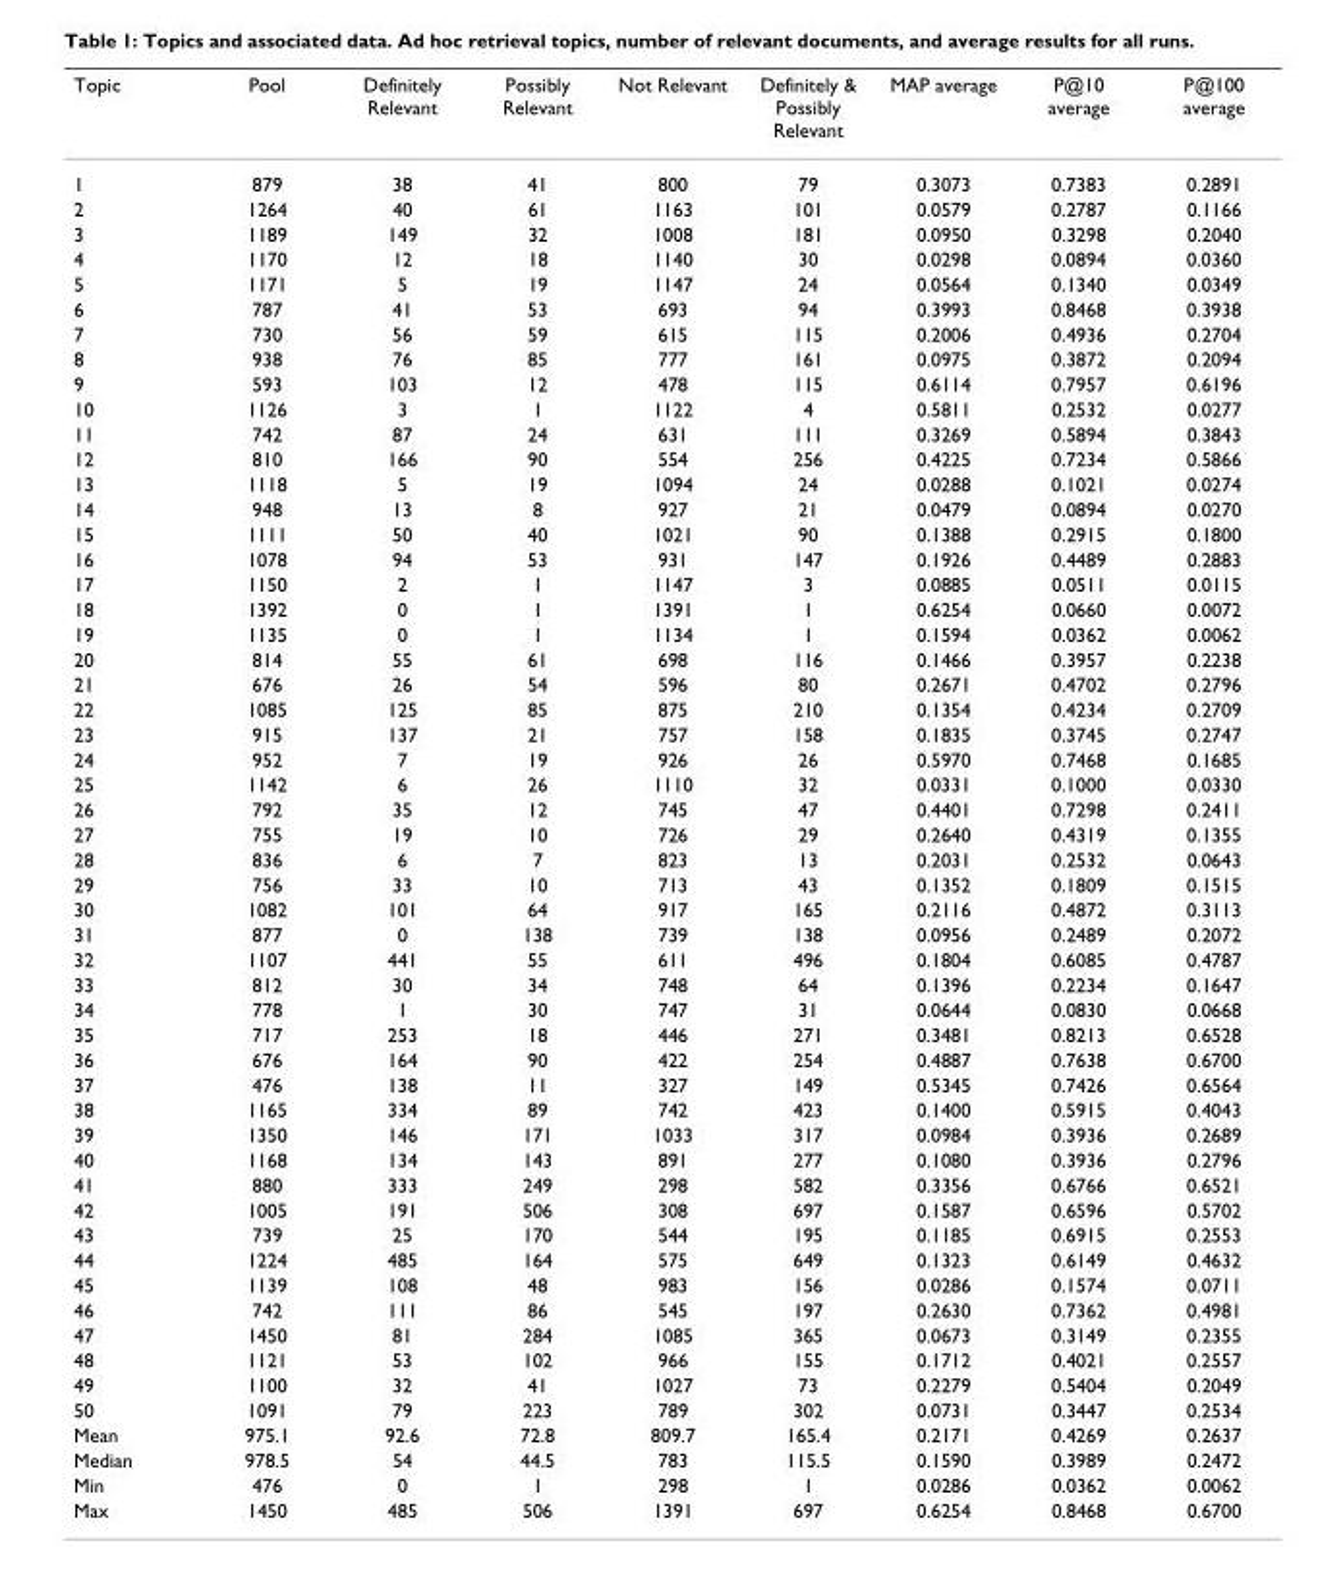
<table><thead><tr><td>Topic</td><td>Pool</td><td>Definitely Relevant</td><td>Possibly Relevant</td><td>Not Relevant</td><td>Definitely &amp; Possibly Relevant</td><td>MAP average</td><td>P@10 average</td><td>P@100 average</td></tr></thead><tbody><tr><td>1</td><td>879</td><td>38</td><td>41</td><td>800</td><td>79</td><td>0.3073</td><td>0.7383</td><td>0.2891</td></tr><tr><td>2</td><td>1264</td><td>40</td><td>61</td><td>1163</td><td>101</td><td>0.0579</td><td>0.2787</td><td>0.1166</td></tr><tr><td>3</td><td>1189</td><td>149</td><td>32</td><td>1008</td><td>181</td><td>0.0950</td><td>0.3298</td><td>0.2040</td></tr><tr><td>4</td><td>1170</td><td>12</td><td>18</td><td>1140</td><td>30</td><td>0.0298</td><td>0.0894</td><td>0.0360</td></tr><tr><td>5</td><td>1171</td><td>5</td><td>19</td><td>1147</td><td>24</td><td>0.0564</td><td>0.1340</td><td>0.0349</td></tr><tr><td>6</td><td>787</td><td>41</td><td>53</td><td>693</td><td>94</td><td>0.3993</td><td>0.8468</td><td>0.3938</td></tr><tr><td>7</td><td>730</td><td>56</td><td>59</td><td>615</td><td>115</td><td>0.2006</td><td>0.4936</td><td>0.2704</td></tr><tr><td>8</td><td>938</td><td>76</td><td>85</td><td>777</td><td>161</td><td>0.0975</td><td>0.3872</td><td>0.2094</td></tr><tr><td>9</td><td>593</td><td>103</td><td>12</td><td>478</td><td>115</td><td>0.6114</td><td>0.7957</td><td>0.6196</td></tr><tr><td>10</td><td>1126</td><td>3</td><td>1</td><td>1122</td><td>4</td><td>0.5811</td><td>0.2532</td><td>0.0277</td></tr><tr><td>11</td><td>742</td><td>87</td><td>24</td><td>631</td><td>111</td><td>0.3269</td><td>0.5894</td><td>0.3843</td></tr><tr><td>12</td><td>810</td><td>166</td><td>90</td><td>554</td><td>256</td><td>0.4225</td><td>0.7234</td><td>0.5866</td></tr><tr><td>13</td><td>1118</td><td>5</td><td>19</td><td>1094</td><td>24</td><td>0.0288</td><td>0.1021</td><td>0.0274</td></tr><tr><td>14</td><td>948</td><td>13</td><td>8</td><td>927</td><td>21</td><td>0.0479</td><td>0.0894</td><td>0.0270</td></tr><tr><td>15</td><td>1111</td><td>50</td><td>40</td><td>1021</td><td>90</td><td>0.1388</td><td>0.2915</td><td>0.1800</td></tr><tr><td>16</td><td>1078</td><td>94</td><td>53</td><td>931</td><td>147</td><td>0.1926</td><td>0.4489</td><td>0.2883</td></tr><tr><td>17</td><td>1150</td><td>2</td><td>1</td><td>1147</td><td>3</td><td>0.0885</td><td>0.0511</td><td>0.0115</td></tr><tr><td>18</td><td>1392</td><td>0</td><td>1</td><td>1391</td><td>1</td><td>0.6254</td><td>0.0660</td><td>0.0072</td></tr><tr><td>19</td><td>1135</td><td>0</td><td>1</td><td>1134</td><td>1</td><td>0.1594</td><td>0.0362</td><td>0.0062</td></tr><tr><td>20</td><td>814</td><td>55</td><td>61</td><td>698</td><td>116</td><td>0.1466</td><td>0.3957</td><td>0.2238</td></tr><tr><td>21</td><td>676</td><td>26</td><td>54</td><td>596</td><td>80</td><td>0.2671</td><td>0.4702</td><td>0.2796</td></tr><tr><td>22</td><td>1085</td><td>125</td><td>85</td><td>875</td><td>210</td><td>0.1354</td><td>0.4234</td><td>0.2709</td></tr><tr><td>23</td><td>915</td><td>137</td><td>21</td><td>757</td><td>158</td><td>0.1835</td><td>0.3745</td><td>0.2747</td></tr><tr><td>24</td><td>952</td><td>7</td><td>19</td><td>926</td><td>26</td><td>0.5970</td><td>0.7468</td><td>0.1685</td></tr><tr><td>25</td><td>1142</td><td>6</td><td>26</td><td>1110</td><td>32</td><td>0.0331</td><td>0.1000</td><td>0.0330</td></tr><tr><td>26</td><td>792</td><td>35</td><td>12</td><td>745</td><td>47</td><td>0.4401</td><td>0.7298</td><td>0.2411</td></tr><tr><td>27</td><td>755</td><td>19</td><td>10</td><td>726</td><td>29</td><td>0.2640</td><td>0.4319</td><td>0.1355</td></tr><tr><td>28</td><td>836</td><td>6</td><td>7</td><td>823</td><td>13</td><td>0.2031</td><td>0.2532</td><td>0.0643</td></tr><tr><td>29</td><td>756</td><td>33</td><td>10</td><td>713</td><td>43</td><td>0.1352</td><td>0.1809</td><td>0.1515</td></tr><tr><td>30</td><td>1082</td><td>101</td><td>64</td><td>917</td><td>165</td><td>0.2116</td><td>0.4872</td><td>0.3113</td></tr><tr><td>31</td><td>877</td><td>0</td><td>138</td><td>739</td><td>138</td><td>0.0956</td><td>0.2489</td><td>0.2072</td></tr><tr><td>32</td><td>1107</td><td>441</td><td>55</td><td>611</td><td>496</td><td>0.1804</td><td>0.6085</td><td>0.4787</td></tr><tr><td>33</td><td>812</td><td>30</td><td>34</td><td>748</td><td>64</td><td>0.1396</td><td>0.2234</td><td>0.1647</td></tr><tr><td>34</td><td>778</td><td>1</td><td>30</td><td>747</td><td>31</td><td>0.0644</td><td>0.0830</td><td>0.0668</td></tr><tr><td>35</td><td>717</td><td>253</td><td>18</td><td>446</td><td>271</td><td>0.3481</td><td>0.8213</td><td>0.6528</td></tr><tr><td>36</td><td>676</td><td>164</td><td>90</td><td>422</td><td>254</td><td>0.4887</td><td>0.7638</td><td>0.6700</td></tr><tr><td>37</td><td>476</td><td>138</td><td>11</td><td>327</td><td>149</td><td>0.5345</td><td>0.7426</td><td>0.6564</td></tr><tr><td>38</td><td>1165</td><td>334</td><td>89</td><td>742</td><td>423</td><td>0.1400</td><td>0.5915</td><td>0.4043</td></tr><tr><td>39</td><td>1350</td><td>146</td><td>171</td><td>1033</td><td>317</td><td>0.0984</td><td>0.3936</td><td>0.2689</td></tr><tr><td>40</td><td>1168</td><td>134</td><td>143</td><td>891</td><td>277</td><td>0.1080</td><td>0.3936</td><td>0.2796</td></tr><tr><td>41</td><td>880</td><td>333</td><td>249</td><td>298</td><td>582</td><td>0.3356</td><td>0.6766</td><td>0.6521</td></tr><tr><td>42</td><td>1005</td><td>191</td><td>506</td><td>308</td><td>697</td><td>0.1587</td><td>0.6596</td><td>0.5702</td></tr><tr><td>43</td><td>739</td><td>25</td><td>170</td><td>544</td><td>195</td><td>0.1185</td><td>0.6915</td><td>0.2553</td></tr><tr><td>44</td><td>1224</td><td>485</td><td>164</td><td>575</td><td>649</td><td>0.1323</td><td>0.6149</td><td>0.4632</td></tr><tr><td>45</td><td>1139</td><td>108</td><td>48</td><td>983</td><td>156</td><td>0.0286</td><td>0.1574</td><td>0.0711</td></tr><tr><td>46</td><td>742</td><td>111</td><td>86</td><td>545</td><td>197</td><td>0.2630</td><td>0.7362</td><td>0.4981</td></tr><tr><td>47</td><td>1450</td><td>81</td><td>284</td><td>1085</td><td>365</td><td>0.0673</td><td>0.3149</td><td>0.2355</td></tr><tr><td>48</td><td>1121</td><td>53</td><td>102</td><td>966</td><td>155</td><td>0.1712</td><td>0.4021</td><td>0.2557</td></tr><tr><td>49</td><td>1100</td><td>32</td><td>41</td><td>1027</td><td>73</td><td>0.2279</td><td>0.5404</td><td>0.2049</td></tr><tr><td>50</td><td>1091</td><td>79</td><td>223</td><td>789</td><td>302</td><td>0.0731</td><td>0.3447</td><td>0.2534</td></tr><tr><td>Mean</td><td>975.1</td><td>92.6</td><td>72.8</td><td>809.7</td><td>165.4</td><td>0.2171</td><td>0.4269</td><td>0.2637</td></tr><tr><td>Median</td><td>978.5</td><td>54</td><td>44.5</td><td>783</td><td>115.5</td><td>0.1590</td><td>0.3989</td><td>0.2472</td></tr><tr><td>Min</td><td>476</td><td>0</td><td>1</td><td>298</td><td>1</td><td>0.0286</td><td>0.0362</td><td>0.0062</td></tr><tr><td>Max</td><td>1450</td><td>485</td><td>506</td><td>1391</td><td>697</td><td>0.6254</td><td>0.8468</td><td>0.6700</td></tr></tbody></table>